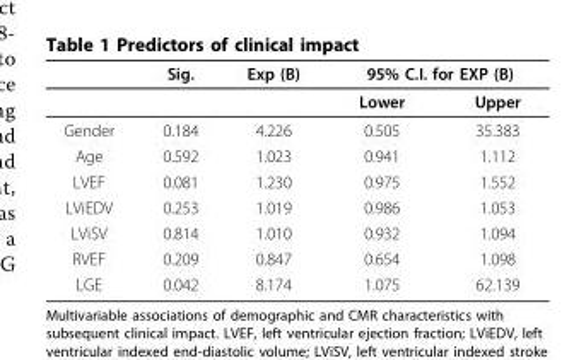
<table><thead><tr><td rowspan="2"></td><td rowspan="2">Sig.</td><td rowspan="2">Exp (B)</td><td colspan="2">95% C.I. for EXP (B)</td></tr><tr><td>Lower</td><td>Upper</td></tr></thead><tbody><tr><td>Gender</td><td>0.184</td><td>4.226</td><td>0.505</td><td>35.383</td></tr><tr><td>Age</td><td>0.592</td><td>1.023</td><td>0.941</td><td>1.112</td></tr><tr><td>LVEF</td><td>0.081</td><td>1.230</td><td>0.975</td><td>1.552</td></tr><tr><td>LViEDV</td><td>0.253</td><td>1.019</td><td>0.986</td><td>1.053</td></tr><tr><td>LViSV</td><td>0.814</td><td>1.010</td><td>0.932</td><td>1.094</td></tr><tr><td>RVEF</td><td>0.209</td><td>0.847</td><td>0.654</td><td>1.098</td></tr><tr><td>LGE</td><td>0.042</td><td>8.174</td><td>1.075</td><td>62.139</td></tr></tbody></table>